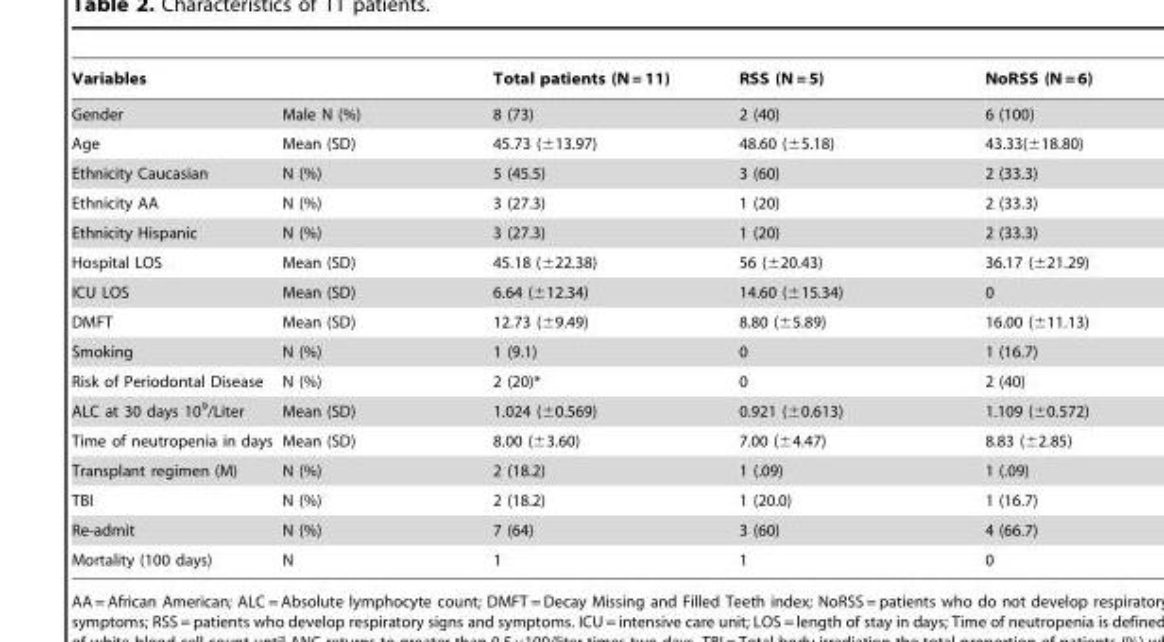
<table><thead><tr><td colspan="2">Variables</td><td rowspan="2">Total patients (N = 11) 8 (73)</td><td rowspan="2">RSS (N = 5) 2 (40)</td><td rowspan="2">NoRSS (N = 6) 6 (100)</td></tr><tr><td>Gender</td><td>Male N (%)</td></tr></thead><tbody><tr><td>Age</td><td>Mean (SD)</td><td>45.73 (±13.97)</td><td>48.60 (±5.18)</td><td>43.33(±18.80)</td></tr><tr><td>Ethnicity Caucasian</td><td>N (%)</td><td>5 (45.5)</td><td>3 (60)</td><td>2 (33.3)</td></tr><tr><td>Ethnicity AA</td><td>N (%)</td><td>3 (27.3)</td><td>1 (20)</td><td>2 (33.3)</td></tr><tr><td>Ethnicity Hispanic</td><td>N (%)</td><td>3 (27.3)</td><td>1 (20)</td><td>2 (33.3)</td></tr><tr><td>Hospital LOS</td><td>Mean (SD)</td><td>45.18 (±22.38)</td><td>56 (±20.43)</td><td>36.17 (±21.29)</td></tr><tr><td>ICU LOS</td><td>Mean (SD)</td><td>6.64 (±12.34)</td><td>14.60 (±15.34)</td><td>0</td></tr><tr><td>DMFT</td><td>Mean (SD)</td><td>12.73 (±9.49)</td><td>8.80 (±5.89)</td><td>16.00 (±11.13)</td></tr><tr><td>Smoking</td><td>N (%)</td><td>1 (9.1)</td><td>0</td><td>1 (16.7)</td></tr><tr><td>Risk of Periodontal Disease</td><td>N (%)</td><td>2 (20)*</td><td>0</td><td>2 (40)</td></tr><tr><td>ALC at 30 days 10<sup>9</sup>/Liter</td><td>Mean (SD)</td><td>1.024 (±0.569)</td><td>0.921 (±0.613)</td><td>1.109 (±0.572)</td></tr><tr><td>Time of neutropenia in days</td><td>Mean (SD)</td><td>8.00 (±3.60)</td><td>7.00 (±4.47)</td><td>8.83 (±2.85)</td></tr><tr><td>Transplant regimen (M)</td><td>N (%)</td><td>2 (18.2)</td><td>1 (.09)</td><td>1 (.09)</td></tr><tr><td>TBI</td><td>N (%)</td><td>2 (18.2)</td><td>1 (20.0)</td><td>1 (16.7)</td></tr><tr><td>Re-admit</td><td>N (%)</td><td>7 (64)</td><td>3 (60)</td><td>4 (66.7)</td></tr><tr><td>Mortality (100 days)</td><td>N</td><td>1</td><td>1</td><td>0</td></tr></tbody></table>